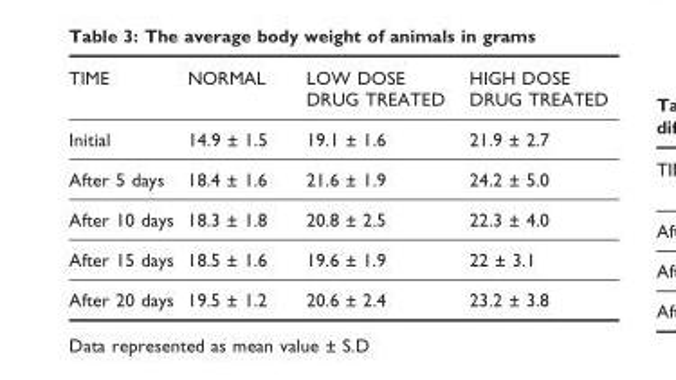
<table><thead><tr><td>TIME</td><td>NORMAL</td><td>LOW DOSE DRUG TREATED</td><td>HIGH DOSE DRUG TREATED</td></tr></thead><tbody><tr><td>Initial</td><td>14.9 ± 1.5</td><td>19.1 ± 1.6</td><td>21.9 ± 2.7</td></tr><tr><td>After 5 days</td><td>18.4 ± 1.6</td><td>21.6 ± 1.9</td><td>24.2 ± 5.0</td></tr><tr><td>After 10 days</td><td>18.3 ± 1.8</td><td>20.8 ± 2.5</td><td>22.3 ± 4.0</td></tr><tr><td>After 15 days</td><td>18.5 ± 1.6</td><td>19.6 ± 1.9</td><td>22 ± 3.1</td></tr><tr><td>After 20 days</td><td>19.5 ± 1.2</td><td>20.6 ± 2.4</td><td>23.2 ± 3.8</td></tr></tbody></table>